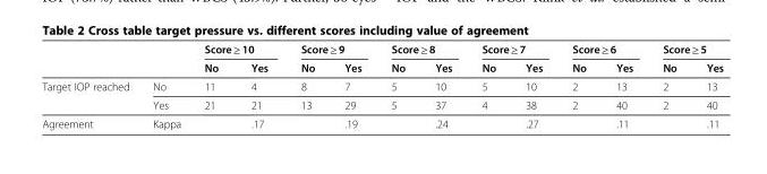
<table><thead><tr><td rowspan="2"></td><td rowspan="2"></td><td colspan="2">Score ≥ 10</td><td colspan="2">Score ≥ 9</td><td colspan="2">Score ≥ 8</td><td colspan="2">Score ≥ 7</td><td colspan="2">Score ≥ 6</td><td colspan="2">Score ≥ 5</td></tr><tr><td>No</td><td>Yes</td><td>No</td><td>Yes</td><td>No</td><td>Yes</td><td>No</td><td>Yes</td><td>No</td><td>Yes</td><td>No</td><td>Yes</td></tr></thead><tbody><tr><td rowspan="2">Target IOP reached</td><td>No</td><td>11</td><td>4</td><td>8</td><td>7</td><td>5</td><td>10</td><td>5</td><td>10</td><td>2</td><td>13</td><td>2</td><td>13</td></tr><tr><td>Yes</td><td>21</td><td>21</td><td>13</td><td>29</td><td>5</td><td>37</td><td>4</td><td>38</td><td>2</td><td>40</td><td>2</td><td>40</td></tr><tr><td>Agreement</td><td>Kappa</td><td></td><td>.17</td><td></td><td>.19</td><td></td><td>.24</td><td></td><td>.27</td><td></td><td>.11</td><td></td><td>.11</td></tr></tbody></table>